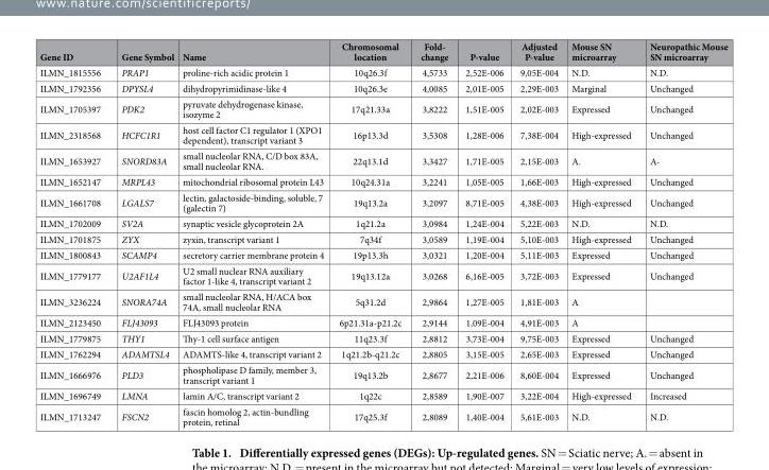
<table><thead><tr><td>Gene ID</td><td>Gene Symbol</td><td>Name</td><td>Chromosomal location</td><td>Fold- change</td><td>P-value</td><td>Adjusted P-value</td><td>Mouse SN microarray</td><td>Neuropathic Mouse SN microarray</td></tr></thead><tbody><tr><td>ILMN_1815556</td><td>PRAP1</td><td>proline-rich acidic protein 1</td><td>10q26.3f</td><td>4,5733</td><td>2,52E-006</td><td>9,05E-004</td><td>N.D.</td><td>N.D.</td></tr><tr><td>ILMN_1792356</td><td>DPYSL4</td><td>dihydropyrimidinase-like 4</td><td>10q26.3e</td><td>4,0085</td><td>2,01E-005</td><td>2,29E-003</td><td>Marginal</td><td>Unchanged</td></tr><tr><td>ILMN_1705397</td><td>PDK2</td><td>pyruvate dehydrogenase kinase, isozyme 2</td><td>17q21.33a</td><td>3,8222</td><td>1,51E-005</td><td>2,02E-003</td><td>Expressed</td><td>Unchanged</td></tr><tr><td>ILMN_2318568</td><td>HCFC1R1</td><td>host cell factor C1 regulator 1 (XPO1 dependent), transcript variant 3</td><td>16p13.3d</td><td>3,5308</td><td>1,28E-006</td><td>7,38E-004</td><td>High-expressed</td><td>Unchanged</td></tr><tr><td>ILMN_1653927</td><td>SNORD83A</td><td>small nucleolar RNA, C/D box 83A, small nucleolar RNA.</td><td>22q13.1d</td><td>3,3427</td><td>1,71E-005</td><td>2,15E-003</td><td>A.</td><td>A-</td></tr><tr><td>ILMN_1652147</td><td>MRPL43</td><td>mitochondrial ribosomal protein L43</td><td>10q24.31a</td><td>3,2241</td><td>1,05E-005</td><td>1,66E-003</td><td>High-expressed</td><td>Unchanged</td></tr><tr><td>ILMN_1661708</td><td>LGALS7</td><td>lectin, galactoside-binding, soluble, 7 (galectin 7)</td><td>19q13.2a</td><td>3,2097</td><td>8,71E-005</td><td>4,38E-003</td><td>High-expressed</td><td>Unchanged</td></tr><tr><td>ILMN_1702009</td><td>SV2A</td><td>synaptic vesicle glycoprotein 2A</td><td>1q21.2a</td><td>3,0984</td><td>1,24E-004</td><td>5,22E-003</td><td>N.D.</td><td>N.D.</td></tr><tr><td>ILMN_1701875</td><td>ZYX</td><td>zyxin, transcript variant 1</td><td>7q34f</td><td>3,0589</td><td>1,19E-004</td><td>5,10E-003</td><td>High-expressed</td><td>Unchanged</td></tr><tr><td>ILMN_1800843</td><td>SCAMP4</td><td>secretory carrier membrane protein 4</td><td>19p13.3h</td><td>3,0321</td><td>1,20E-004</td><td>5,11E-003</td><td>Expressed</td><td>Unchanged</td></tr><tr><td>ILMN_1779177</td><td>U2AF1L4</td><td>U2 small nuclear RNA auxiliary factor 1-like 4, transcript variant 2</td><td>19q13.12a</td><td>3,0268</td><td>6,16E-005</td><td>3,72E-003</td><td>Expressed</td><td>Unchanged</td></tr><tr><td>ILMN_3236224</td><td>SNORA74A</td><td>small nucleolar RNA, H/ACA box 74A, small nucleolar RNA</td><td>5q31.2d</td><td>2,9864</td><td>1,27E-005</td><td>1,81E-003</td><td>A</td><td></td></tr><tr><td>ILMN_2123450</td><td>FLJ43093</td><td>FLJ43093 protein</td><td>6p21.31a-p21.2c</td><td>2,9144</td><td>1,09E-004</td><td>4,91E-003</td><td>A</td><td></td></tr><tr><td>ILMN_1779875</td><td>THY1</td><td>Thy-1 cell surface antigen</td><td>11q23.3f</td><td>2,8812</td><td>3,73E-004</td><td>9,75E-003</td><td>Expressed</td><td>Unchanged</td></tr><tr><td>ILMN_1762294</td><td>ADAMTSL4</td><td>ADAMTS-like 4, transcript variant 2</td><td>1q21.2b-q21.2c</td><td>2,8805</td><td>3,15E-005</td><td>2,65E-003</td><td>Expressed</td><td>Unchanged</td></tr><tr><td>ILMN_1666976</td><td>PLD3</td><td>phospholipase D family, member 3, transcript variant 1</td><td>19q13.2b</td><td>2,8677</td><td>2,21E-006</td><td>8,60E-004</td><td>Expressed</td><td>Unchanged</td></tr><tr><td>ILMN_1696749</td><td>LMNA</td><td>lamin A/C, transcript variant 2</td><td>1q22c</td><td>2,8589</td><td>1,90E-007</td><td>3,22E-004</td><td>High-expressed</td><td>Increased</td></tr><tr><td>ILMN_1713247</td><td>FSCN2</td><td>fascin homolog 2, actin-bundling protein, retinal</td><td>17q25.3f</td><td>2,8089</td><td>1,40E-004</td><td>5,61E-003</td><td>N.D.</td><td>N.D.</td></tr></tbody></table>